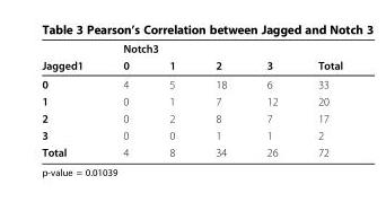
<table><thead><tr><td rowspan="2">Jagged1</td><td colspan="4">Notch3</td><td rowspan="2">Total</td></tr><tr><td>0</td><td>1</td><td>2</td><td>3</td></tr></thead><tbody><tr><td>0</td><td>4</td><td>5</td><td>18</td><td>6</td><td>33</td></tr><tr><td>1</td><td>0</td><td>1</td><td>7</td><td>12</td><td>20</td></tr><tr><td>2</td><td>0</td><td>2</td><td>8</td><td>7</td><td>17</td></tr><tr><td>3</td><td>0</td><td>0</td><td>1</td><td>1</td><td>2</td></tr><tr><td>Total</td><td>4</td><td>8</td><td>34</td><td>26</td><td>72</td></tr></tbody></table>